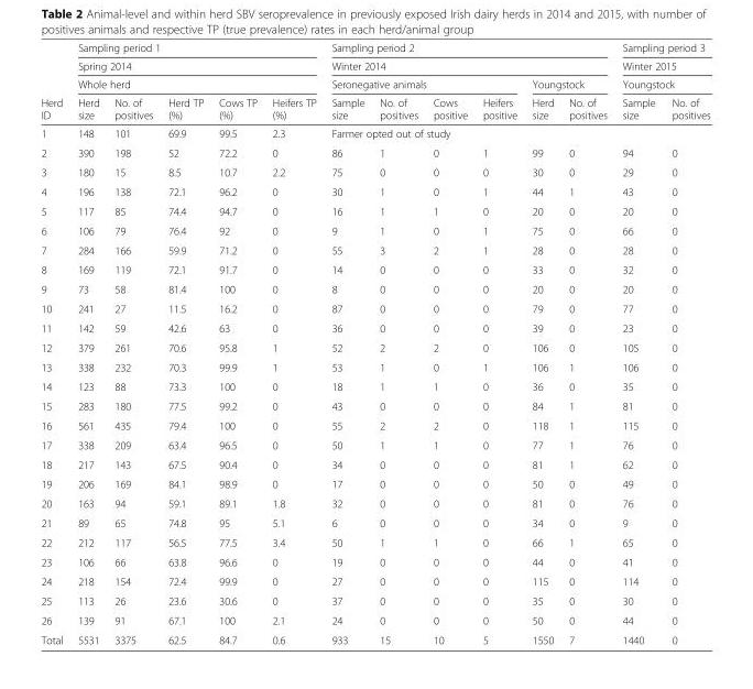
<table><thead><tr><td rowspan="4">Herd ID</td><td rowspan="3" colspan="5">Sampling period 1 Spring 2014 Whole herd</td><td rowspan="2" colspan="6">Sampling period 2 Winter 2014</td><td rowspan="3" colspan="2">Sampling period 3 Winter 2015 Youngstock</td></tr><tr></tr><tr><td colspan="4">Seronegative animals</td><td colspan="2">Youngstock</td></tr><tr><td>Herd size</td><td>No. of positives</td><td>Herd TP (%)</td><td>Cows TP (%)</td><td>Heifers TP (%)</td><td>Sample size</td><td>No. of positives</td><td>Cows positive</td><td>Heifers positive</td><td>Herd size</td><td>No. of positives</td><td>Sample size</td><td>No. of positives</td></tr></thead><tbody><tr><td>1</td><td>148</td><td>101</td><td>69.9</td><td>99.5</td><td>2.3</td><td colspan="8">Farmer opted out of study</td></tr><tr><td>2</td><td>390</td><td>198</td><td>52</td><td>72.2</td><td>0</td><td>86</td><td>1</td><td>0</td><td>1</td><td>99</td><td>0</td><td>94</td><td>0</td></tr><tr><td>3</td><td>180</td><td>15</td><td>8.5</td><td>10.7</td><td>2.2</td><td>75</td><td>0</td><td>0</td><td>0</td><td>30</td><td>0</td><td>29</td><td>0</td></tr><tr><td>4</td><td>196</td><td>138</td><td>72.1</td><td>96.2</td><td>0</td><td>30</td><td>1</td><td>0</td><td>1</td><td>44</td><td>1</td><td>43</td><td>0</td></tr><tr><td>5</td><td>117</td><td>85</td><td>74.4</td><td>94.7</td><td>0</td><td>16</td><td>1</td><td>1</td><td>0</td><td>20</td><td>0</td><td>20</td><td>0</td></tr><tr><td>6</td><td>106</td><td>79</td><td>76.4</td><td>92</td><td>0</td><td>9</td><td>1</td><td>0</td><td>1</td><td>75</td><td>0</td><td>66</td><td>0</td></tr><tr><td>7</td><td>284</td><td>166</td><td>59.9</td><td>71.2</td><td>0</td><td>55</td><td>3</td><td>2</td><td>1</td><td>28</td><td>0</td><td>28</td><td>0</td></tr><tr><td>8</td><td>169</td><td>119</td><td>72.1</td><td>91.7</td><td>0</td><td>14</td><td>0</td><td>0</td><td>0</td><td>33</td><td>0</td><td>32</td><td>0</td></tr><tr><td>9</td><td>73</td><td>58</td><td>81.4</td><td>100</td><td>0</td><td>8</td><td>0</td><td>0</td><td>0</td><td>20</td><td>0</td><td>20</td><td>0</td></tr><tr><td>10</td><td>241</td><td>27</td><td>11.5</td><td>16.2</td><td>0</td><td>87</td><td>0</td><td>0</td><td>0</td><td>79</td><td>0</td><td>77</td><td>0</td></tr><tr><td>11</td><td>142</td><td>59</td><td>42.6</td><td>63</td><td>0</td><td>36</td><td>0</td><td>0</td><td>0</td><td>39</td><td>0</td><td>23</td><td>0</td></tr><tr><td>12</td><td>379</td><td>261</td><td>70.6</td><td>95.8</td><td>1</td><td>52</td><td>2</td><td>2</td><td>0</td><td>106</td><td>0</td><td>105</td><td>0</td></tr><tr><td>13</td><td>338</td><td>232</td><td>70.3</td><td>99.9</td><td>1</td><td>53</td><td>1</td><td>0</td><td>1</td><td>106</td><td>1</td><td>106</td><td>0</td></tr><tr><td>14</td><td>123</td><td>88</td><td>73.3</td><td>100</td><td>0</td><td>18</td><td>1</td><td>1</td><td>0</td><td>36</td><td>0</td><td>35</td><td>0</td></tr><tr><td>15</td><td>283</td><td>180</td><td>77.5</td><td>99.2</td><td>0</td><td>43</td><td>0</td><td>0</td><td>0</td><td>84</td><td>1</td><td>81</td><td>0</td></tr><tr><td>16</td><td>561</td><td>435</td><td>79.4</td><td>100</td><td>0</td><td>55</td><td>2</td><td>2</td><td>0</td><td>118</td><td>1</td><td>115</td><td>0</td></tr><tr><td>17</td><td>338</td><td>209</td><td>63.4</td><td>96.5</td><td>0</td><td>50</td><td>1</td><td>1</td><td>0</td><td>77</td><td>1</td><td>76</td><td>0</td></tr><tr><td>18</td><td>217</td><td>143</td><td>67.5</td><td>90.4</td><td>0</td><td>34</td><td>0</td><td>0</td><td>0</td><td>81</td><td>1</td><td>62</td><td>0</td></tr><tr><td>19</td><td>206</td><td>169</td><td>84.1</td><td>98.9</td><td>0</td><td>17</td><td>0</td><td>0</td><td>0</td><td>50</td><td>0</td><td>49</td><td>0</td></tr><tr><td>20</td><td>163</td><td>94</td><td>59.1</td><td>89.1</td><td>1.8</td><td>32</td><td>0</td><td>0</td><td>0</td><td>81</td><td>0</td><td>76</td><td>0</td></tr><tr><td>21</td><td>89</td><td>65</td><td>74.8</td><td>95</td><td>5.1</td><td>6</td><td>0</td><td>0</td><td>0</td><td>34</td><td>0</td><td>9</td><td>0</td></tr><tr><td>22</td><td>212</td><td>117</td><td>56.5</td><td>77.5</td><td>3.4</td><td>50</td><td>1</td><td>1</td><td>0</td><td>66</td><td>1</td><td>65</td><td>0</td></tr><tr><td>23</td><td>106</td><td>66</td><td>63.8</td><td>96.6</td><td>0</td><td>19</td><td>0</td><td>0</td><td>0</td><td>44</td><td>0</td><td>41</td><td>0</td></tr><tr><td>24</td><td>218</td><td>154</td><td>72.4</td><td>99.9</td><td>0</td><td>27</td><td>0</td><td>0</td><td>0</td><td>115</td><td>0</td><td>114</td><td>0</td></tr><tr><td>25</td><td>113</td><td>26</td><td>23.6</td><td>30.6</td><td>0</td><td>37</td><td>0</td><td>0</td><td>0</td><td>35</td><td>0</td><td>30</td><td>0</td></tr><tr><td>26</td><td>139</td><td>91</td><td>67.1</td><td>100</td><td>2.1</td><td>24</td><td>0</td><td>0</td><td>0</td><td>50</td><td>0</td><td>44</td><td>0</td></tr><tr><td>Total</td><td>5531</td><td>3375</td><td>62.5</td><td>84.7</td><td>0.6</td><td>933</td><td>15</td><td>10</td><td>5</td><td>1550</td><td>7</td><td>1440</td><td>0</td></tr></tbody></table>